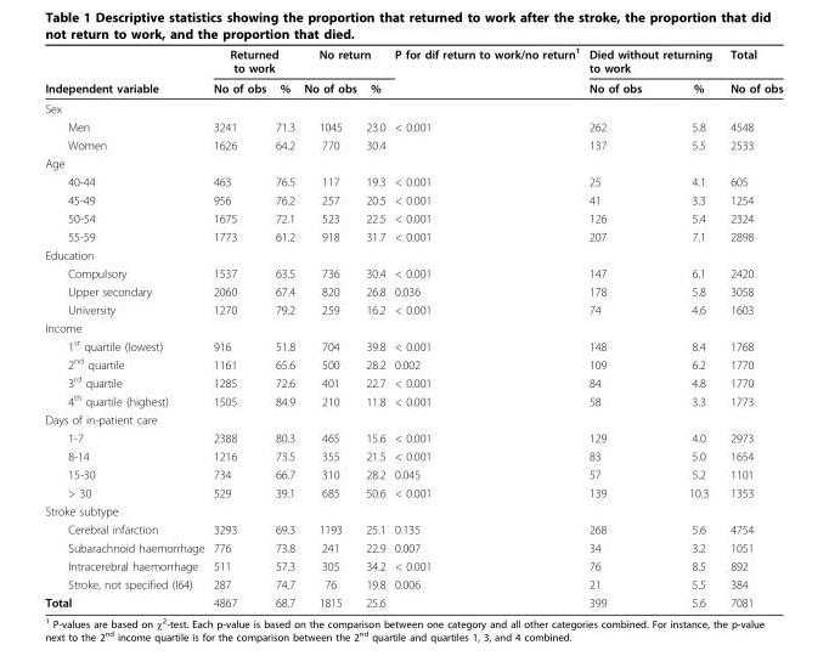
<table><thead><tr><td rowspan="2">Independent variable</td><td colspan="2">Returned to work</td><td colspan="2">No return</td><td rowspan="2">P for dif return to work/no return<sup>1</sup></td><td colspan="2">Died without returning to work</td><td rowspan="2">Total No of obs</td></tr><tr><td>No of obs</td><td>%</td><td>No of obs</td><td>%</td><td>No of obs</td><td>%</td></tr></thead><tbody><tr><td colspan="9">Sex</td></tr><tr><td>Men</td><td>3241</td><td>71.3</td><td>1045</td><td>23.0</td><td>&lt; 0.001</td><td>262</td><td>5.8</td><td>4548</td></tr><tr><td>Women</td><td>1626</td><td>64.2</td><td>770</td><td>30.4</td><td></td><td>137</td><td>5.5</td><td>2533</td></tr><tr><td colspan="9">Age</td></tr><tr><td>40-44</td><td>463</td><td>76.5</td><td>117</td><td>19.3</td><td>&lt; 0.001</td><td>25</td><td>4.1</td><td>605</td></tr><tr><td>45-49</td><td>956</td><td>76.2</td><td>257</td><td>20.5</td><td>&lt; 0.001</td><td>41</td><td>3.3</td><td>1254</td></tr><tr><td>50-54</td><td>1675</td><td>72.1</td><td>523</td><td>22.5</td><td>&lt; 0.001</td><td>126</td><td>5.4</td><td>2324</td></tr><tr><td>55-59</td><td>1773</td><td>61.2</td><td>918</td><td>31.7</td><td>&lt; 0.001</td><td>207</td><td>7.1</td><td>2898</td></tr><tr><td colspan="9">Education</td></tr><tr><td>Compulsory</td><td>1537</td><td>63.5</td><td>736</td><td>30.4</td><td>&lt; 0.001</td><td>147</td><td>6.1</td><td>2420</td></tr><tr><td>Upper secondary</td><td>2060</td><td>67.4</td><td>820</td><td>26.8</td><td>0.036</td><td>178</td><td>5.8</td><td>3058</td></tr><tr><td>University</td><td>1270</td><td>79.2</td><td>259</td><td>16.2</td><td>&lt; 0.001</td><td>74</td><td>4.6</td><td>1603</td></tr><tr><td colspan="9">Income</td></tr><tr><td>1<sup>st</sup> quartile (lowest)</td><td>916</td><td>51.8</td><td>704</td><td>39.8</td><td>&lt; 0.001</td><td>148</td><td>8.4</td><td>1768</td></tr><tr><td>2<sup>nd</sup> quartile</td><td>1161</td><td>65.6</td><td>500</td><td>28.2</td><td>0.002</td><td>109</td><td>6.2</td><td>1770</td></tr><tr><td>3<sup>rd</sup> quartile</td><td>1285</td><td>72.6</td><td>401</td><td>22.7</td><td>&lt; 0.001</td><td>84</td><td>4.8</td><td>1770</td></tr><tr><td>4<sup>th</sup> quartile (highest)</td><td>1505</td><td>84.9</td><td>210</td><td>11.8</td><td>&lt; 0.001</td><td>58</td><td>3.3</td><td>1773</td></tr><tr><td colspan="9">Days of in-patient care</td></tr><tr><td>1-7</td><td>2388</td><td>80.3</td><td>465</td><td>15.6</td><td>&lt; 0.001</td><td>129</td><td>4.0</td><td>2973</td></tr><tr><td>8-14</td><td>1216</td><td>73.5</td><td>355</td><td>21.5</td><td>&lt; 0.001</td><td>83</td><td>5.0</td><td>1654</td></tr><tr><td>15-30</td><td>734</td><td>66.7</td><td>310</td><td>28.2</td><td>0.045</td><td>57</td><td>5.2</td><td>1101</td></tr><tr><td>&gt; 30</td><td>529</td><td>39.1</td><td>685</td><td>50.6</td><td>&lt; 0.001</td><td>139</td><td>10.3</td><td>1353</td></tr><tr><td colspan="9">Stroke subtype</td></tr><tr><td>Cerebral infarction</td><td>3293</td><td>69.3</td><td>1193</td><td>25.1</td><td>0.135</td><td>268</td><td>5.6</td><td>4754</td></tr><tr><td>Subarachnoid haemorrhage</td><td>776</td><td>73.8</td><td>241</td><td>22.9</td><td>0.007</td><td>34</td><td>3.2</td><td>1051</td></tr><tr><td>Intracerebral haemorrhage</td><td>511</td><td>57.3</td><td>305</td><td>34.2</td><td>&lt; 0.001</td><td>76</td><td>8.5</td><td>892</td></tr><tr><td>Stroke, not specified (I64)</td><td>287</td><td>74.7</td><td>76</td><td>19.8</td><td>0.006</td><td>21</td><td>5.5</td><td>384</td></tr><tr><td>Total</td><td>4867</td><td>68.7</td><td>1815</td><td>25.6</td><td></td><td>399</td><td>5.6</td><td>7081</td></tr></tbody></table>